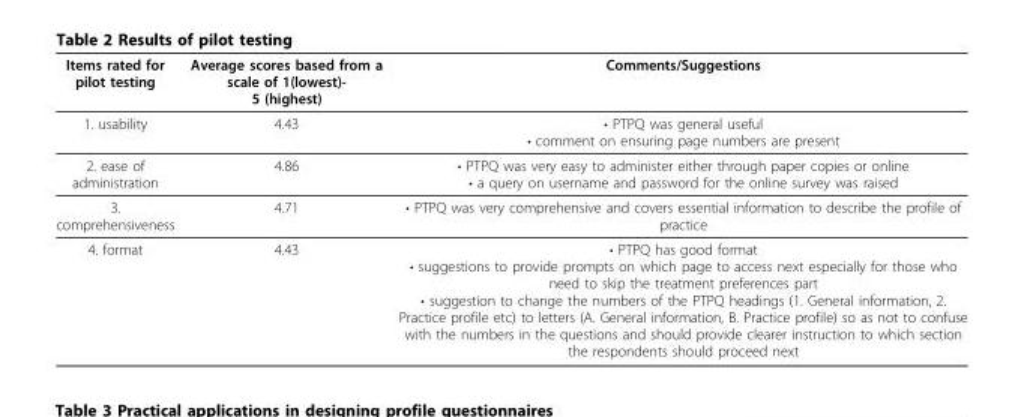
<table><thead><tr><td>Items rated for pilot testing</td><td>Average scores based from a scale of 1(lowest)- 5 (highest)</td><td>Comments/Suggestions</td></tr></thead><tbody><tr><td>1. usability</td><td>4.43</td><td>• PTPQ was general useful • comment on ensuring page numbers are present</td></tr><tr><td>2. ease of administration</td><td>4.86</td><td>• PTPQ was very easy to administer either through paper copies or online • a query on username and password for the online survey was raised</td></tr><tr><td>3. comprehensiveness</td><td>4.71</td><td>• PTPQ was very comprehensive and covers essential information to describe the profile of practice</td></tr><tr><td>4. format</td><td>4.43</td><td>• PTPQ has good format • suggestions to provide prompts on which page to access next especially for those who need to skip the treatment preferences part • suggestion to change the numbers of the PTPQ headings (1. General information, 2. Practice profile etc) to letters (A. General information, B. Practice profile) so as not to confuse with the numbers in the questions and should provide clearer instruction to which section the respondents should proceed next</td></tr></tbody></table>